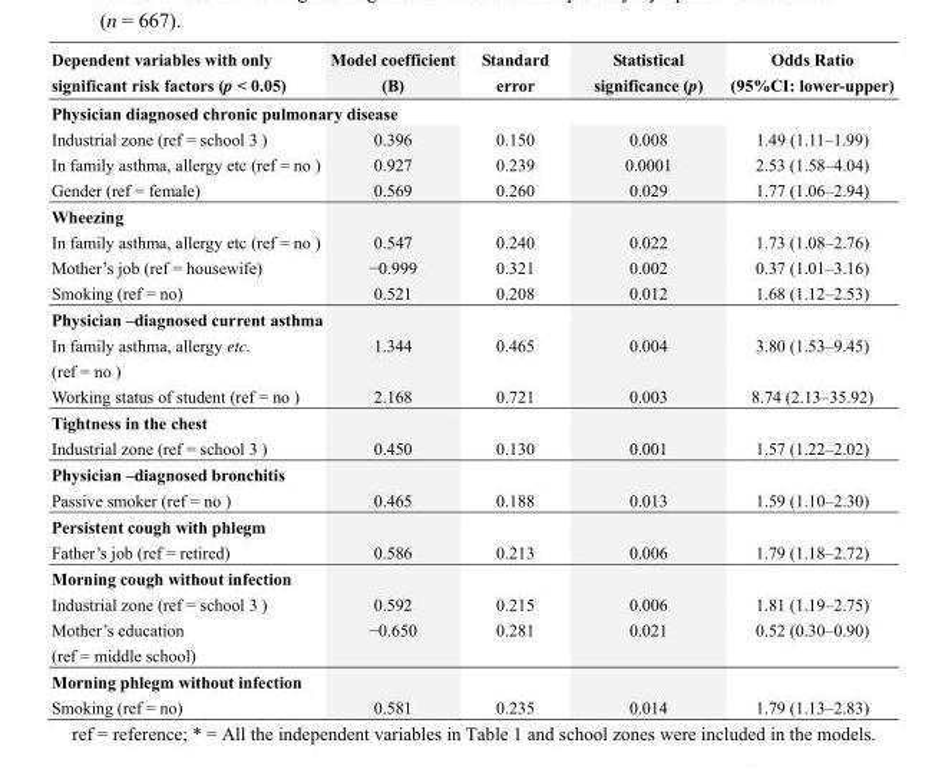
<table><thead><tr><td>Dependent variables with only significant risk factors (p &lt; 0.05)</td><td>Model coefficient (B)</td><td>Standard error</td><td>Statistical significance (p)</td><td>Odds Ratio (95%CI: lower-upper)</td></tr></thead><tbody><tr><td colspan="5">Physician diagnosed chronic pulmonary disease</td></tr><tr><td>Industrial zone (ref = school 3 )</td><td>0.396</td><td>0.150</td><td>0.008</td><td>1.49 (1.11–1.99)</td></tr><tr><td>In family asthma, allergy etc (ref = no )</td><td>0.927</td><td>0.239</td><td>0.0001</td><td>2.53 (1.58–4.04)</td></tr><tr><td>Gender (ref = female)</td><td>0.569</td><td>0.260</td><td>0.029</td><td>1.77 (1.06–2.94)</td></tr><tr><td colspan="5">Wheezing</td></tr><tr><td>In family asthma, allergy etc (ref = no )</td><td>0.547</td><td>0.240</td><td>0.022</td><td>1.73 (1.08–2.76)</td></tr><tr><td>Mother’s job (ref = housewife)</td><td>−0.999</td><td>0.321</td><td>0.002</td><td>0.37 (1.01–3.16)</td></tr><tr><td>Smoking (ref = no)</td><td>0.521</td><td>0.208</td><td>0.012</td><td>1.68 (1.12–2.53)</td></tr><tr><td colspan="5">Physician –diagnosed current asthma</td></tr><tr><td>In family asthma, allergy etc. (ref = no )</td><td>1.344</td><td>0.465</td><td>0.004</td><td>3.80 (1.53–9.45)</td></tr><tr><td>Working status of student (ref = no )</td><td>2.168</td><td>0.721</td><td>0.003</td><td>8.74 (2.13–35.92)</td></tr><tr><td colspan="5">Tightness in the chest</td></tr><tr><td>Industrial zone (ref = school 3 )</td><td>0.450</td><td>0.130</td><td>0.001</td><td>1.57 (1.22–2.02)</td></tr><tr><td colspan="5">Physician –diagnosed bronchitis</td></tr><tr><td>Passive smoker (ref = no )</td><td>0.465</td><td>0.188</td><td>0.013</td><td>1.59 (1.10–2.30)</td></tr><tr><td colspan="5">Persistent cough with phlegm</td></tr><tr><td>Father’s job (ref = retired)</td><td>0.586</td><td>0.213</td><td>0.006</td><td>1.79 (1.18–2.72)</td></tr><tr><td colspan="5">Morning cough without infection</td></tr><tr><td>Industrial zone (ref = school 3 )</td><td>0.592</td><td>0.215</td><td>0.006</td><td>1.81 (1.19–2.75)</td></tr><tr><td>Mother’s education (ref = middle school)</td><td>−0.650</td><td>0.281</td><td>0.021</td><td>0.52 (0.30–0.90)</td></tr><tr><td colspan="5">Morning phlegm without infection</td></tr><tr><td>Smoking (ref = no)</td><td>0.581</td><td>0.235</td><td>0.014</td><td>1.79 (1.13–2.83)</td></tr></tbody></table>